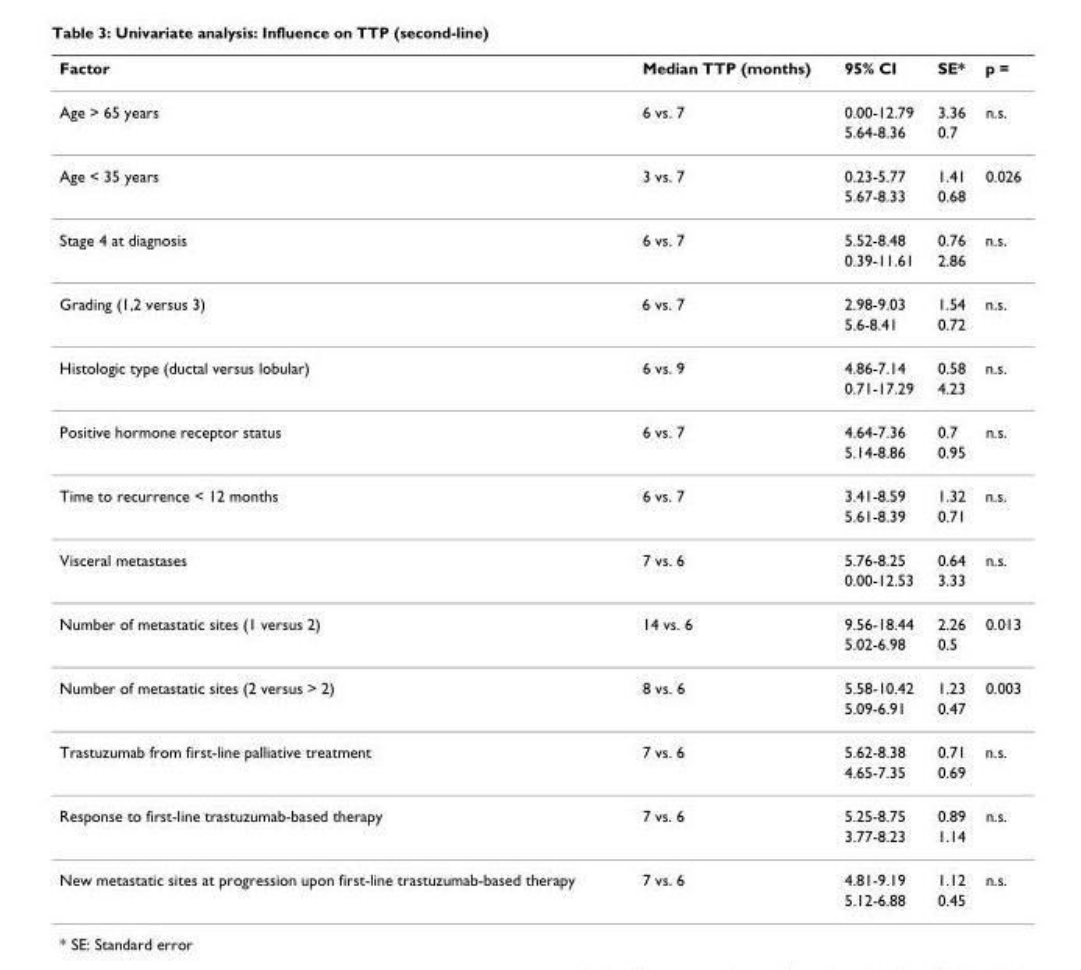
<table><thead><tr><td>Factor</td><td>Median TTP (months)</td><td>95% CI</td><td>SE*</td><td>p =</td></tr></thead><tbody><tr><td rowspan="2">Age &gt; 65 years</td><td>6 vs. 7</td><td>0.00-12.79</td><td>3.36</td><td>n.s.</td></tr><tr><td></td><td>5.64-8.36</td><td>0.7</td><td></td></tr><tr><td rowspan="2">Age &lt; 35 years</td><td>3 vs. 7</td><td>0.23-5.77</td><td>1.41</td><td>0.026</td></tr><tr><td></td><td>5.67-8.33</td><td>0.68</td><td></td></tr><tr><td rowspan="2">Stage 4 at diagnosis</td><td>6 vs. 7</td><td>5.52-8.48</td><td>0.76</td><td>n.s.</td></tr><tr><td></td><td>0.39-11.61</td><td>2.86</td><td></td></tr><tr><td rowspan="2">Grading (1,2 versus 3)</td><td>6 vs. 7</td><td>2.98-9.03</td><td>1.54</td><td>n.s.</td></tr><tr><td></td><td>5.6-8.41</td><td>0.72</td><td></td></tr><tr><td rowspan="2">Histologic type (ductal versus lobular)</td><td>6 vs. 9</td><td>4.86-7.14</td><td>0.58</td><td>n.s.</td></tr><tr><td></td><td>0.71-17.29</td><td>4.23</td><td></td></tr><tr><td rowspan="2">Positive hormone receptor status</td><td>6 vs. 7</td><td>4.64-7.36</td><td>0.7</td><td>n.s.</td></tr><tr><td></td><td>5.14-8.86</td><td>0.95</td><td></td></tr><tr><td rowspan="2">Time to recurrence &lt; 12 months</td><td>6 vs. 7</td><td>3.41-8.59</td><td>1.32</td><td>n.s.</td></tr><tr><td></td><td>5.61-8.39</td><td>0.71</td><td></td></tr><tr><td rowspan="2">Visceral metastases</td><td>7 vs. 6</td><td>5.76-8.25</td><td>0.64</td><td>n.s.</td></tr><tr><td></td><td>0.00-12.53</td><td>3.33</td><td></td></tr><tr><td rowspan="2">Number of metastatic sites (1 versus 2)</td><td>14 vs. 6</td><td>9.56-18.44</td><td>2.26</td><td>0.013</td></tr><tr><td></td><td>5.02-6.98</td><td>0.5</td><td></td></tr><tr><td rowspan="2">Number of metastatic sites (2 versus &gt; 2)</td><td>8 vs. 6</td><td>5.58-10.42</td><td>1.23</td><td>0.003</td></tr><tr><td></td><td>5.09-6.91</td><td>0.47</td><td></td></tr><tr><td rowspan="2">Trastuzumab from first-line palliative treatment</td><td>7 vs. 6</td><td>5.62-8.38</td><td>0.71</td><td>n.s.</td></tr><tr><td></td><td>4.65-7.35</td><td>0.69</td><td></td></tr><tr><td rowspan="2">Response to first-line trastuzumab-based therapy</td><td>7 vs. 6</td><td>5.25-8.75</td><td>0.89</td><td>n.s.</td></tr><tr><td></td><td>3.77-8.23</td><td>1.14</td><td></td></tr><tr><td rowspan="2">New metastatic sites at progression upon first-line trastuzumab-based therapy</td><td>7 vs. 6</td><td>4.81-9.19</td><td>1.12</td><td>n.s.</td></tr><tr><td></td><td>5.12-6.88</td><td>0.45</td><td></td></tr></tbody></table>